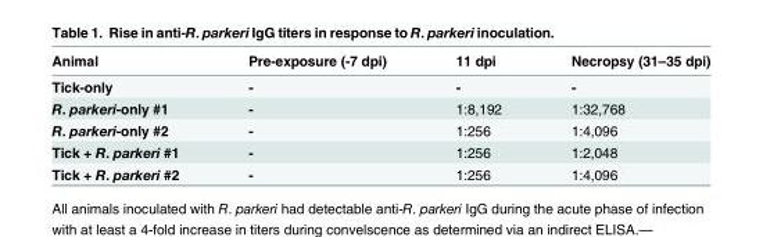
<table><thead><tr><td>Animal</td><td>Pre-exposure (-7 dpi)</td><td>11 dpi</td><td>Necropsy (31–35 dpi)</td></tr></thead><tbody><tr><td>Tick-only</td><td>-</td><td>-</td><td>-</td></tr><tr><td>R. parkeri-only #1</td><td>-</td><td>1:8,192</td><td>1:32,768</td></tr><tr><td>R. parkeri-only #2</td><td>-</td><td>1:256</td><td>1:4,096</td></tr><tr><td>Tick + R. parkeri #1</td><td>-</td><td>1:256</td><td>1:2,048</td></tr><tr><td>Tick + R. parkeri #2</td><td>-</td><td>1:256</td><td>1:4,096</td></tr></tbody></table>